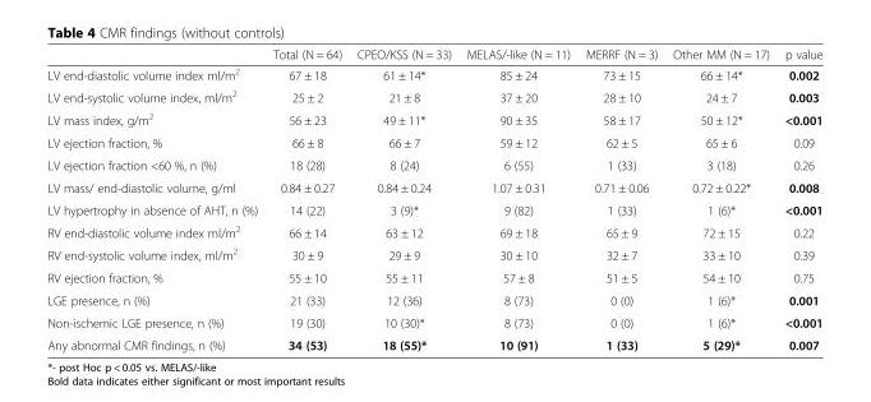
<table><thead><tr><td></td><td>Total (N = 64)</td><td>CPEO/KSS (N = 33)</td><td>MELAS/-like (N = 11)</td><td>MERRF (N = 3)</td><td>Other MM (N = 17)</td><td>p value</td></tr></thead><tbody><tr><td>LV end-diastolic volume index ml/m<sup>2</sup></td><td>67 ± 18</td><td>61 ± 14*</td><td>85 ± 24</td><td>73 ± 15</td><td>66 ± 14*</td><td>0.002</td></tr><tr><td>LV end-systolic volume index, ml/m<sup>2</sup></td><td>25 ± 2</td><td>21 ± 8</td><td>37 ± 20</td><td>28 ± 10</td><td>24 ± 7</td><td>0.003</td></tr><tr><td>LV mass index, g/m<sup>2</sup></td><td>56 ± 23</td><td>49 ± 11*</td><td>90 ± 35</td><td>58 ± 17</td><td>50 ± 12*</td><td>&lt;0.001</td></tr><tr><td>LV ejection fraction, %</td><td>66 ± 8</td><td>66 ± 7</td><td>59 ± 12</td><td>62 ± 5</td><td>65 ± 6</td><td>0.09</td></tr><tr><td>LV ejection fraction &lt;60 %, n (%)</td><td>18 (28)</td><td>8 (24)</td><td>6 (55)</td><td>1 (33)</td><td>3 (18)</td><td>0.26</td></tr><tr><td>LV mass/ end-diastolic volume, g/ml</td><td>0.84 ± 0.27</td><td>0.84 ± 0.24</td><td>1.07 ± 0.31</td><td>0.71 ± 0.06</td><td>0.72 ± 0.22*</td><td>0.008</td></tr><tr><td>LV hypertrophy in absence of AHT, n (%)</td><td>14 (22)</td><td>3 (9)*</td><td>9 (82)</td><td>1 (33)</td><td>1 (6)*</td><td>&lt;0.001</td></tr><tr><td>RV end-diastolic volume index ml/m<sup>2</sup></td><td>66 ± 14</td><td>63 ± 12</td><td>69 ± 18</td><td>65 ± 9</td><td>72 ± 15</td><td>0.22</td></tr><tr><td>RV end-systolic volume index, ml/m<sup>2</sup></td><td>30 ± 9</td><td>29 ± 9</td><td>30 ± 10</td><td>32 ± 7</td><td>33 ± 10</td><td>0.39</td></tr><tr><td>RV ejection fraction, %</td><td>55 ± 10</td><td>55 ± 11</td><td>57 ± 8</td><td>51 ± 5</td><td>54 ± 10</td><td>0.75</td></tr><tr><td>LGE presence, n (%)</td><td>21 (33)</td><td>12 (36)</td><td>8 (73)</td><td>0 (0)</td><td>1 (6)*</td><td>0.001</td></tr><tr><td>Non-ischemic LGE presence, n (%)</td><td>19 (30)</td><td>10 (30)*</td><td>8 (73)</td><td>0 (0)</td><td>1 (6)*</td><td>&lt;0.001</td></tr><tr><td>Any abnormal CMR findings, n (%)</td><td>34 (53)</td><td>18 (55)*</td><td>10 (91)</td><td>1 (33)</td><td>5 (29)*</td><td>0.007</td></tr></tbody></table>